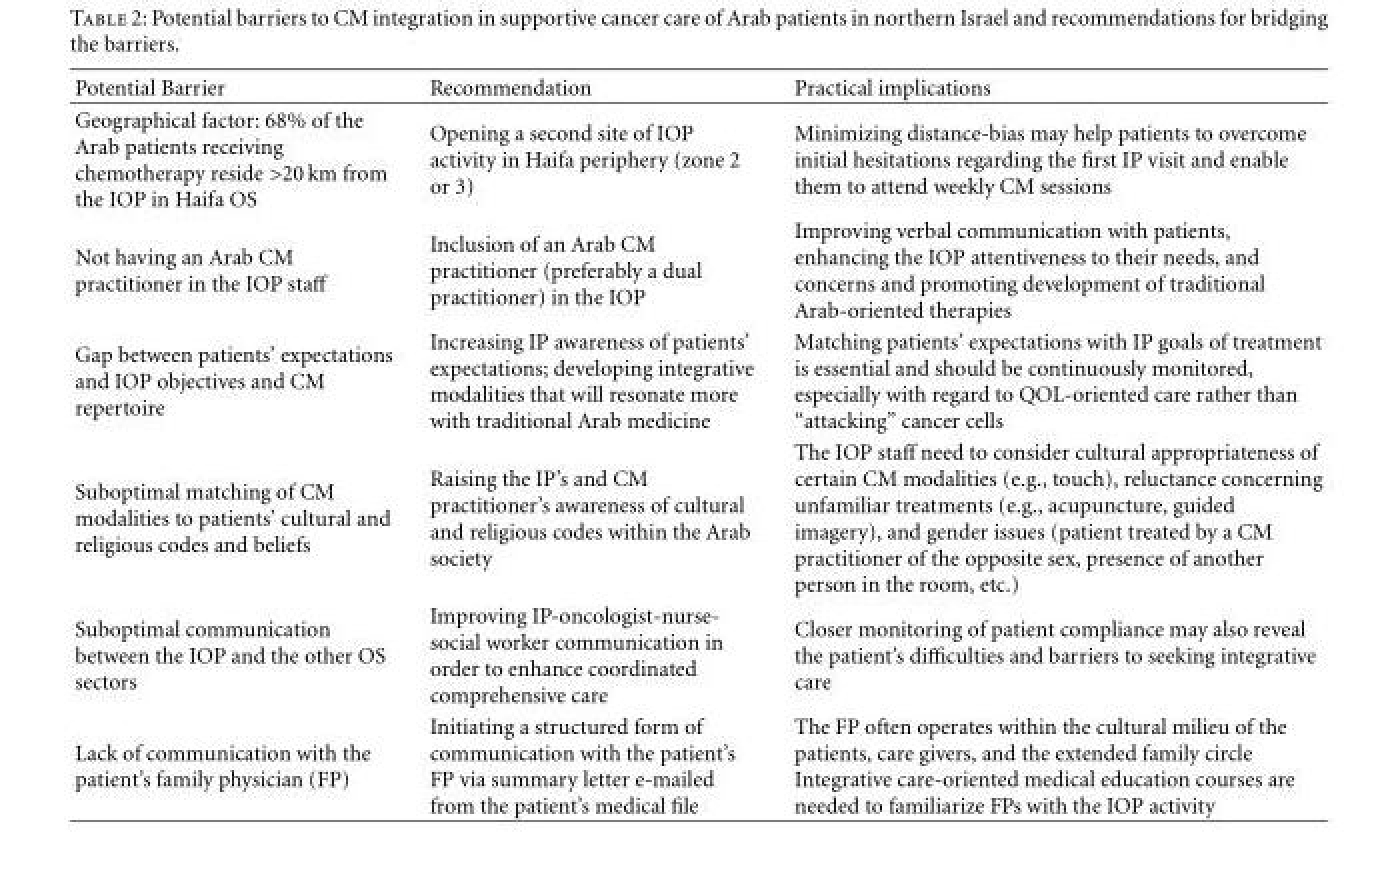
<table><thead><tr><td>Potential Barrier</td><td>Recommendation</td><td>Practical implications</td></tr></thead><tbody><tr><td>Geographical factor: 68% of the Arab patients receiving chemotherapy reside &gt;20 km from the IOP in Haifa OS</td><td>Opening a second site of IOP activity in Haifa periphery (zone 2 or 3)</td><td>Minimizing distance-bias may help patients to overcome initial hesitations regarding the first IP visit and enable them to attend weekly CM sessions</td></tr><tr><td>Not having an Arab CM practitioner in the IOP staff</td><td>Inclusion of an Arab CM practitioner (preferably a dual practitioner) in the IOP</td><td>Improving verbal communication with patients, enhancing the IOP attentiveness to their needs, and concerns and promoting development of traditional Arab-oriented therapies</td></tr><tr><td>Gap between patients’ expectations and IOP objectives and CM repertoire</td><td>Increasing IP awareness of patients’ expectations; developing integrative modalities that will resonate more with traditional Arab medicine</td><td>Matching patients’ expectations with IP goals of treatment is essential and should be continuously monitored, especially with regard to QOL-oriented care rather than “attacking” cancer cells</td></tr><tr><td>Suboptimal matching of CM modalities to patients’ cultural and religious codes and beliefs</td><td>Raising the IP’s and CM practitioner’s awareness of cultural and religious codes within the Arab society</td><td>The IOP staff need to consider cultural appropriateness of certain CM modalities (e.g., touch), reluctance concerning unfamiliar treatments (e.g., acupuncture, guided imagery), and gender issues (patient treated by a CM practitioner of the opposite sex, presence of another person in the room, etc.)</td></tr><tr><td>Suboptimal communication between the IOP and the other OS sectors</td><td>Improving IP-oncologist-nurse- social worker communication in order to enhance coordinated comprehensive care</td><td>Closer monitoring of patient compliance may also reveal the patient’s difficulties and barriers to seeking integrative care</td></tr><tr><td>Lack of communication with the patient’s family physician (FP)</td><td>Initiating a structured form of communication with the patient’s FP via summary letter e-mailed from the patient’s medical file</td><td>The FP often operates within the cultural milieu of the patients, care givers, and the extended family circle Integrative care-oriented medical education courses are needed to familiarize FPs with the IOP activity</td></tr></tbody></table>